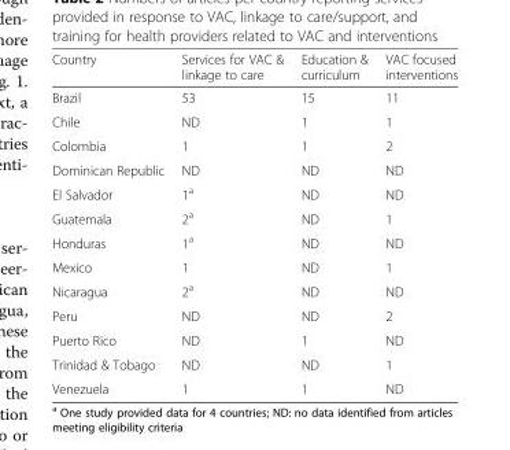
<table><thead><tr><td>Country</td><td>Services for VAC &amp; linkage to care</td><td>Education &amp; curriculum</td><td>VAC focused interventions</td></tr></thead><tbody><tr><td>Brazil</td><td>53</td><td>15</td><td>11</td></tr><tr><td>Chile</td><td>ND</td><td>1</td><td>1</td></tr><tr><td>Colombia</td><td>1</td><td>1</td><td>2</td></tr><tr><td>Dominican Republic</td><td>ND</td><td>ND</td><td>ND</td></tr><tr><td>El Salvador</td><td>1<sup>a</sup></td><td>ND</td><td>ND</td></tr><tr><td>Guatemala</td><td>2<sup>a</sup></td><td>ND</td><td>1</td></tr><tr><td>Honduras</td><td>1<sup>a</sup></td><td>ND</td><td>ND</td></tr><tr><td>Mexico</td><td>1</td><td>ND</td><td>1</td></tr><tr><td>Nicaragua</td><td>2<sup>a</sup></td><td>ND</td><td>ND</td></tr><tr><td>Peru</td><td>ND</td><td>ND</td><td>2</td></tr><tr><td>Puerto Rico</td><td>ND</td><td>1</td><td>ND</td></tr><tr><td>Trinidad &amp; Tobago</td><td>ND</td><td>ND</td><td>1</td></tr><tr><td>Venezuela</td><td>1</td><td>1</td><td>ND</td></tr></tbody></table>